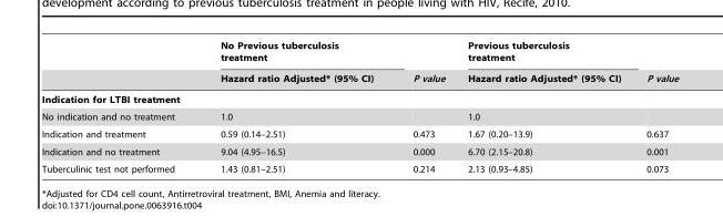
<table><thead><tr><td rowspan="2"></td><td rowspan="2">No Previous tuberculosis treatment Hazard ratio Adjusted* (95% CI)</td><td rowspan="2">P value</td><td rowspan="2">Previous tuberculosis treatment Hazard ratio Adjusted* (95% CI)</td><td rowspan="2">P value</td></tr><tr></tr></thead><tbody><tr><td colspan="5">Indication for LTBI treatment</td></tr><tr><td>No indication and no treatment</td><td>1.0</td><td></td><td>1.0</td><td></td></tr><tr><td>Indication and treatment</td><td>0.59 (0.14–2.51)</td><td>0.473</td><td>1.67 (0.20–13.9)</td><td>0.637</td></tr><tr><td>Indication and no treatment</td><td>9.04 (4.95–16.5)</td><td>0.000</td><td>6.70 (2.15–20.8)</td><td>0.001</td></tr><tr><td>Tuberculinic test not performed</td><td>1.43 (0.81–2.51)</td><td>0.214</td><td>2.13 (0.93–4.85)</td><td>0.073</td></tr></tbody></table>